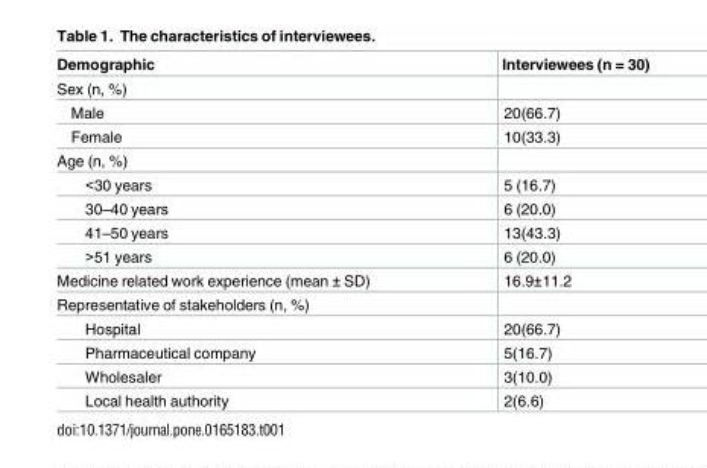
<table><thead><tr><td>Demographic</td><td>Interviewees (n = 30)</td></tr></thead><tbody><tr><td colspan="2">Sex (n, %)</td></tr><tr><td>Male</td><td>20(66.7)</td></tr><tr><td>Female</td><td>10(33.3)</td></tr><tr><td colspan="2">Age (n, %)</td></tr><tr><td>&lt;30 years</td><td>5 (16.7)</td></tr><tr><td>30–40 years</td><td>6 (20.0)</td></tr><tr><td>41–50 years</td><td>13(43.3)</td></tr><tr><td>&gt;51 years</td><td>6 (20.0)</td></tr><tr><td>Medicine related work experience (mean ± SD)</td><td>16.9±11.2</td></tr><tr><td colspan="2">Representative of stakeholders (n, %)</td></tr><tr><td>Hospital</td><td>20(66.7)</td></tr><tr><td>Pharmaceutical company</td><td>5(16.7)</td></tr><tr><td>Wholesaler</td><td>3(10.0)</td></tr><tr><td>Local health authority</td><td>2(6.6)</td></tr></tbody></table>